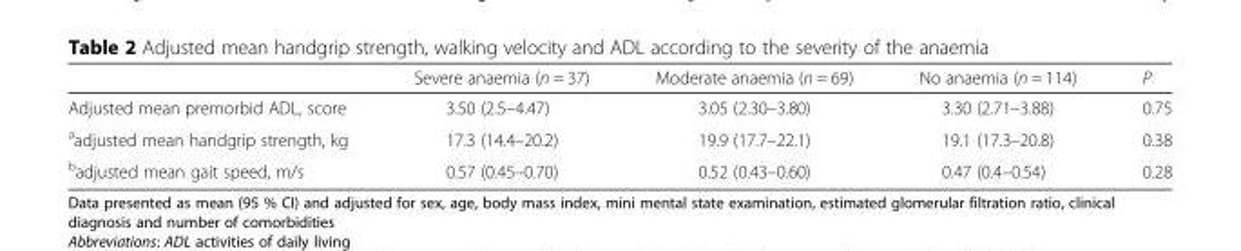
<table><thead><tr><td></td><td>Severe anaemia (n = 37)</td><td>Moderate anaemia (n = 69)</td><td>No anaemia (n = 114)</td><td>P</td></tr></thead><tbody><tr><td>Adjusted mean premorbid ADL, score</td><td>3.50 (2.5–4.47)</td><td>3.05 (2.30–3.80)</td><td>3.30 (2.71–3.88)</td><td>0.75</td></tr><tr><td><sup>a</sup>adjusted mean handgrip strength, kg</td><td>17.3 (14.4–20.2)</td><td>19.9 (17.7–22.1)</td><td>19.1 (17.3–20.8)</td><td>0.38</td></tr><tr><td><sup>b</sup>adjusted mean gait speed, m/s</td><td>0.57 (0.45–0.70)</td><td>0.52 (0.43–0.60)</td><td>0.47 (0.4–0.54)</td><td>0.28</td></tr></tbody></table>